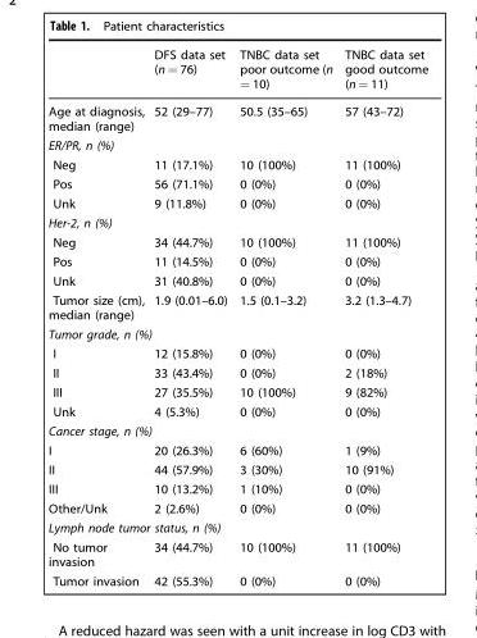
<table><thead><tr><td></td><td>DFS data set (n = 76)</td><td>TNBC data set poor outcome (n = 10)</td><td>TNBC data set good outcome (n = 11)</td></tr></thead><tbody><tr><td>Age at diagnosis, median (range)</td><td>52 (29–77)</td><td>50.5 (35–65)</td><td>57 (43–72)</td></tr><tr><td colspan="4">ER/PR, n (%)</td></tr><tr><td>Neg</td><td>11 (17.1%)</td><td>10 (100%)</td><td>11 (100%)</td></tr><tr><td>Pos</td><td>56 (71.1%)</td><td>0 (0%)</td><td>0 (0%)</td></tr><tr><td>Unk</td><td>9 (11.8%)</td><td>0 (0%)</td><td>0 (0%)</td></tr><tr><td colspan="4">Her-2, n (%)</td></tr><tr><td>Neg</td><td>34 (44.7%)</td><td>10 (100%)</td><td>11 (100%)</td></tr><tr><td>Pos</td><td>11 (14.5%)</td><td>0 (0%)</td><td>0 (0%)</td></tr><tr><td>Unk</td><td>31 (40.8%)</td><td>0 (0%)</td><td>0 (0%)</td></tr><tr><td>Tumor size (cm), median (range)</td><td>1.9 (0.01–6.0)</td><td>1.5 (0.1–3.2)</td><td>3.2 (1.3–4.7)</td></tr><tr><td colspan="4">Tumor grade, n (%)</td></tr><tr><td>I</td><td>12 (15.8%)</td><td>0 (0%)</td><td>0 (0%)</td></tr><tr><td>II</td><td>33 (43.4%)</td><td>0 (0%)</td><td>2 (18%)</td></tr><tr><td>III</td><td>27 (35.5%)</td><td>10 (100%)</td><td>9 (82%)</td></tr><tr><td>Unk</td><td>4 (5.3%)</td><td>0 (0%)</td><td>0 (0%)</td></tr><tr><td colspan="4">Cancer stage, n (%)</td></tr><tr><td>I</td><td>20 (26.3%)</td><td>6 (60%)</td><td>1 (9%)</td></tr><tr><td>II</td><td>44 (57.9%)</td><td>3 (30%)</td><td>10 (91%)</td></tr><tr><td>III</td><td>10 (13.2%)</td><td>1 (10%)</td><td>0 (0%)</td></tr><tr><td>Other/Unk</td><td>2 (2.6%)</td><td>0 (0%)</td><td>0 (0%)</td></tr><tr><td colspan="4">Lymph node tumor status, n (%)</td></tr><tr><td>No tumor invasion</td><td>34 (44.7%)</td><td>10 (100%)</td><td>11 (100%)</td></tr><tr><td>Tumor invasion</td><td>42 (55.3%)</td><td>0 (0%)</td><td>0 (0%)</td></tr></tbody></table>